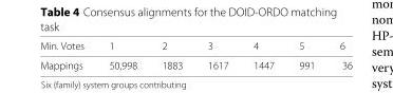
<table><thead><tr><td>Min. Votes</td><td>1</td><td>2</td><td>3</td><td>4</td><td>5</td><td>6</td></tr></thead><tbody><tr><td>Mappings</td><td>50,998</td><td>1883</td><td>1617</td><td>1447</td><td>991</td><td>36</td></tr></tbody></table>